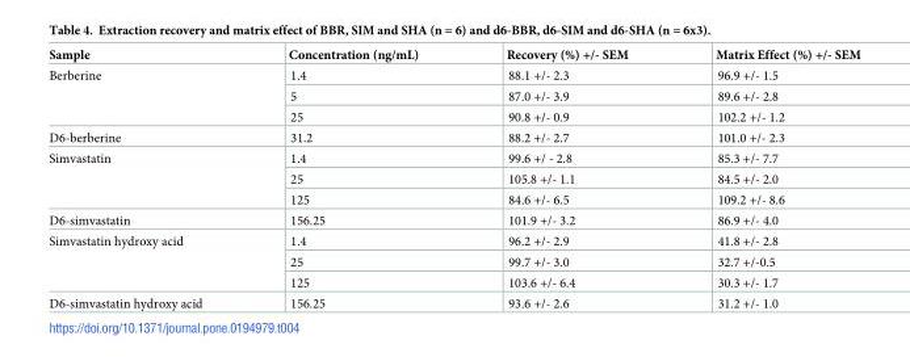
<table><thead><tr><td>Sample</td><td>Concentration (ng/mL)</td><td>Recovery (%) +/- SEM</td><td>Matrix Effect (%) +/- SEM</td></tr></thead><tbody><tr><td rowspan="3">Berberine</td><td>1.4</td><td>88.1 +/- 2.3</td><td>96.9 +/- 1.5</td></tr><tr><td>5</td><td>87.0 +/- 3.9</td><td>89.6 +/- 2.8</td></tr><tr><td>25</td><td>90.8 +/- 0.9</td><td>102.2 +/- 1.2</td></tr><tr><td>D6-berberine</td><td>31.2</td><td>88.2 +/- 2.7</td><td>101.0 +/- 2.3</td></tr><tr><td rowspan="3">Simvastatin</td><td>1.4</td><td>99.6 +/ - 2.8</td><td>85.3 +/- 7.7</td></tr><tr><td>25</td><td>105.8 +/- 1.1</td><td>84.5 +/- 2.0</td></tr><tr><td>125</td><td>84.6 +/- 6.5</td><td>109.2 +/- 8.6</td></tr><tr><td>D6-simvastatin</td><td>156.25</td><td>101.9 +/- 3.2</td><td>86.9 +/- 4.0</td></tr><tr><td rowspan="3">Simvastatin hydroxy acid</td><td>1.4</td><td>96.2 +/- 2.9</td><td>41.8 +/- 2.8</td></tr><tr><td>25</td><td>99.7 +/- 3.0</td><td>32.7 +/-0.5</td></tr><tr><td>125</td><td>103.6 +/- 6.4</td><td>30.3 +/- 1.7</td></tr><tr><td>D6-simvastatin hydroxy acid</td><td>156.25</td><td>93.6 +/- 2.6</td><td>31.2 +/- 1.0</td></tr></tbody></table>